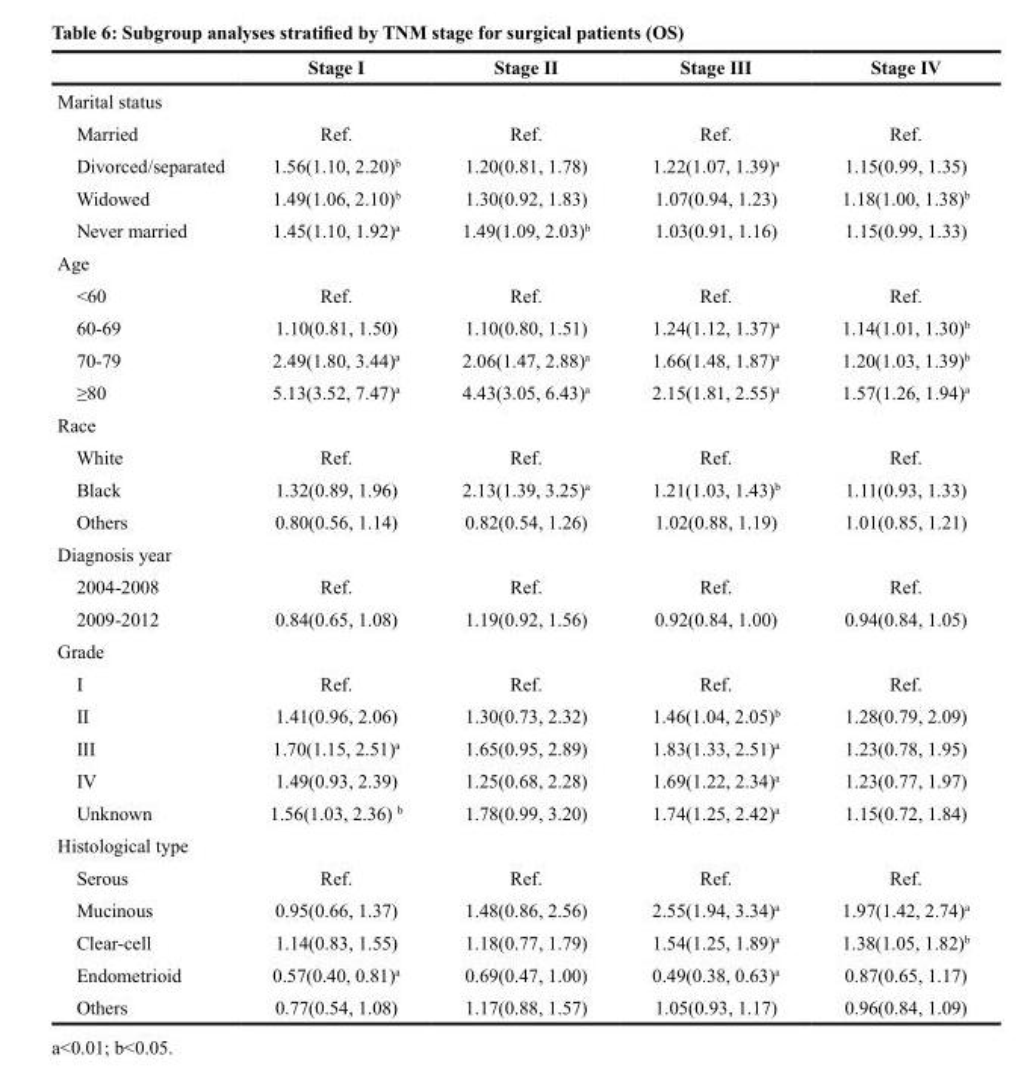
<table><thead><tr><td></td><td>Stage I</td><td>Stage II</td><td>Stage III</td><td>Stage IV</td></tr></thead><tbody><tr><td colspan="5">Marital status</td></tr><tr><td>Married</td><td>Ref.</td><td>Ref.</td><td>Ref.</td><td>Ref.</td></tr><tr><td>Divorced/separated</td><td>1.56(1.10, 2.20)<sup>b</sup></td><td>1.20(0.81, 1.78)</td><td>1.22(1.07, 1.39)<sup>a</sup></td><td>1.15(0.99, 1.35)</td></tr><tr><td>Widowed</td><td>1.49(1.06, 2.10)<sup>b</sup></td><td>1.30(0.92, 1.83)</td><td>1.07(0.94, 1.23)</td><td>1.18(1.00, 1.38)<sup>b</sup></td></tr><tr><td>Never married</td><td>1.45(1.10, 1.92)<sup>a</sup></td><td>1.49(1.09, 2.03)<sup>b</sup></td><td>1.03(0.91, 1.16)</td><td>1.15(0.99, 1.33)</td></tr><tr><td colspan="5">Age</td></tr><tr><td>&lt;60</td><td>Ref.</td><td>Ref.</td><td>Ref.</td><td>Ref.</td></tr><tr><td>60-69</td><td>1.10(0.81, 1.50)</td><td>1.10(0.80, 1.51)</td><td>1.24(1.12, 1.37)<sup>a</sup></td><td>1.14(1.01, 1.30)<sup>b</sup></td></tr><tr><td>70-79</td><td>2.49(1.80, 3.44)<sup>a</sup></td><td>2.06(1.47, 2.88)<sup>a</sup></td><td>1.66(1.48, 1.87)<sup>a</sup></td><td>1.20(1.03, 1.39)<sup>b</sup></td></tr><tr><td>≥80</td><td>5.13(3.52, 7.47)<sup>a</sup></td><td>4.43(3.05, 6.43)<sup>a</sup></td><td>2.15(1.81, 2.55)<sup>a</sup></td><td>1.57(1.26, 1.94)<sup>a</sup></td></tr><tr><td colspan="5">Race</td></tr><tr><td>White</td><td>Ref.</td><td>Ref.</td><td>Ref.</td><td>Ref.</td></tr><tr><td>Black</td><td>1.32(0.89, 1.96)</td><td>2.13(1.39, 3.25)<sup>a</sup></td><td>1.21(1.03, 1.43)<sup>b</sup></td><td>1.11(0.93, 1.33)</td></tr><tr><td>Others</td><td>0.80(0.56, 1.14)</td><td>0.82(0.54, 1.26)</td><td>1.02(0.88, 1.19)</td><td>1.01(0.85, 1.21)</td></tr><tr><td colspan="5">Diagnosis year</td></tr><tr><td>2004-2008</td><td>Ref.</td><td>Ref.</td><td>Ref.</td><td>Ref.</td></tr><tr><td>2009-2012</td><td>0.84(0.65, 1.08)</td><td>1.19(0.92, 1.56)</td><td>0.92(0.84, 1.00)</td><td>0.94(0.84, 1.05)</td></tr><tr><td colspan="5">Grade</td></tr><tr><td>I</td><td>Ref.</td><td>Ref.</td><td>Ref.</td><td>Ref.</td></tr><tr><td>II</td><td>1.41(0.96, 2.06)</td><td>1.30(0.73, 2.32)</td><td>1.46(1.04, 2.05)<sup>b</sup></td><td>1.28(0.79, 2.09)</td></tr><tr><td>III</td><td>1.70(1.15, 2.51)<sup>a</sup></td><td>1.65(0.95, 2.89)</td><td>1.83(1.33, 2.51)<sup>a</sup></td><td>1.23(0.78, 1.95)</td></tr><tr><td>IV</td><td>1.49(0.93, 2.39)</td><td>1.25(0.68, 2.28)</td><td>1.69(1.22, 2.34)<sup>a</sup></td><td>1.23(0.77, 1.97)</td></tr><tr><td>Unknown</td><td>1.56(1.03, 2.36) <sup>b</sup></td><td>1.78(0.99, 3.20)</td><td>1.74(1.25, 2.42)<sup>a</sup></td><td>1.15(0.72, 1.84)</td></tr><tr><td colspan="5">Histological type</td></tr><tr><td>Serous</td><td>Ref.</td><td>Ref.</td><td>Ref.</td><td>Ref.</td></tr><tr><td>Mucinous</td><td>0.95(0.66, 1.37)</td><td>1.48(0.86, 2.56)</td><td>2.55(1.94, 3.34)<sup>a</sup></td><td>1.97(1.42, 2.74)<sup>a</sup></td></tr><tr><td>Clear-cell</td><td>1.14(0.83, 1.55)</td><td>1.18(0.77, 1.79)</td><td>1.54(1.25, 1.89)<sup>a</sup></td><td>1.38(1.05, 1.82)<sup>b</sup></td></tr><tr><td>Endometrioid</td><td>0.57(0.40, 0.81)<sup>a</sup></td><td>0.69(0.47, 1.00)</td><td>0.49(0.38, 0.63)<sup>a</sup></td><td>0.87(0.65, 1.17)</td></tr><tr><td>Others</td><td>0.77(0.54, 1.08)</td><td>1.17(0.88, 1.57)</td><td>1.05(0.93, 1.17)</td><td>0.96(0.84, 1.09)</td></tr></tbody></table>